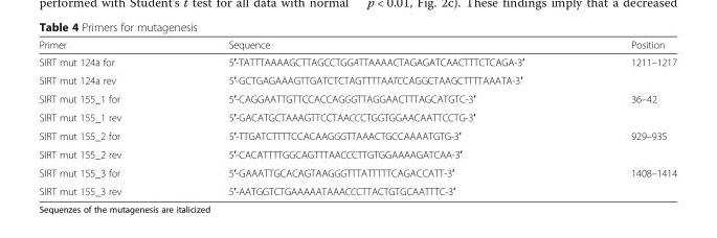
<table><thead><tr><td>Primer</td><td>Sequence</td><td>Position</td></tr></thead><tbody><tr><td>SIRT mut 124a for</td><td>5′-TATTTAAAAGCTTAGCCTGGATTAAAACTAGAGATCAACTTTCTCAGA-3′</td><td>1211–1217</td></tr><tr><td>SIRT mut 124a rev</td><td>5′-GCTGAGAAAGTTGATCTCTAGTTTTAATCCAGGCTAAGCTTTTAAATA-3′</td><td></td></tr><tr><td>SIRT mut 155_1 for</td><td>5′-CAGGAATTGTTCCACCAGGGTTAGGAACTTTAGCATGTC-3′</td><td>36–42</td></tr><tr><td>SIRT mut 155_1 rev</td><td>5′-GACATGCTAAAGTTCCTAACCCTGGTGGAACAATTCCTG-3′</td><td></td></tr><tr><td>SIRT mut 155_2 for</td><td>5′-TTGATCTTTTCCACAAGGGTTAAACTGCCAAAATGTG-3′</td><td>929–935</td></tr><tr><td>SIRT mut 155_2 rev</td><td>5′-CACATTTTGGCAGTTTAACCCTTGTGGAAAAGATCAA-3′</td><td></td></tr><tr><td>SIRT mut 155_3 for</td><td>5′-GAAATTGCACAGTAAGGGTTTATTTTTCAGACCATT-3′</td><td>1408–1414</td></tr><tr><td>SIRT mut 155_3 rev</td><td>5′-AATGGTCTGAAAAATAAACCCTTACTGTGCAATTTC-3′</td><td></td></tr></tbody></table>